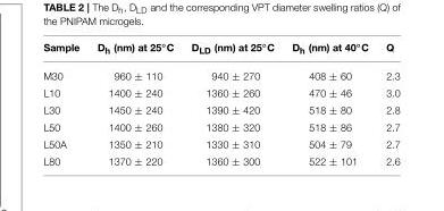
<table><thead><tr><td>Sample</td><td>Dh (nm) at 25◦C</td><td>DLD (nm) at 25◦C</td><td>Dh (nm) at 40◦C</td><td>Q</td></tr></thead><tbody><tr><td>M30</td><td>960 ± 110</td><td>940 ± 270</td><td>408 ± 60</td><td>2.3</td></tr><tr><td>L10</td><td>1400 ± 240</td><td>1360 ± 260</td><td>470 ± 46</td><td>3.0</td></tr><tr><td>L30</td><td>1450 ± 240</td><td>1390 ± 420</td><td>518 ± 80</td><td>2.8</td></tr><tr><td>L50</td><td>1400 ± 260</td><td>1380 ± 320</td><td>518 ± 86</td><td>2.7</td></tr><tr><td>L50A</td><td>1350 ± 210</td><td>1330 ± 310</td><td>504 ± 79</td><td>2.7</td></tr><tr><td>L80</td><td>1370 ± 220</td><td>1360 ± 300</td><td>522 ± 101</td><td>2.6</td></tr></tbody></table>